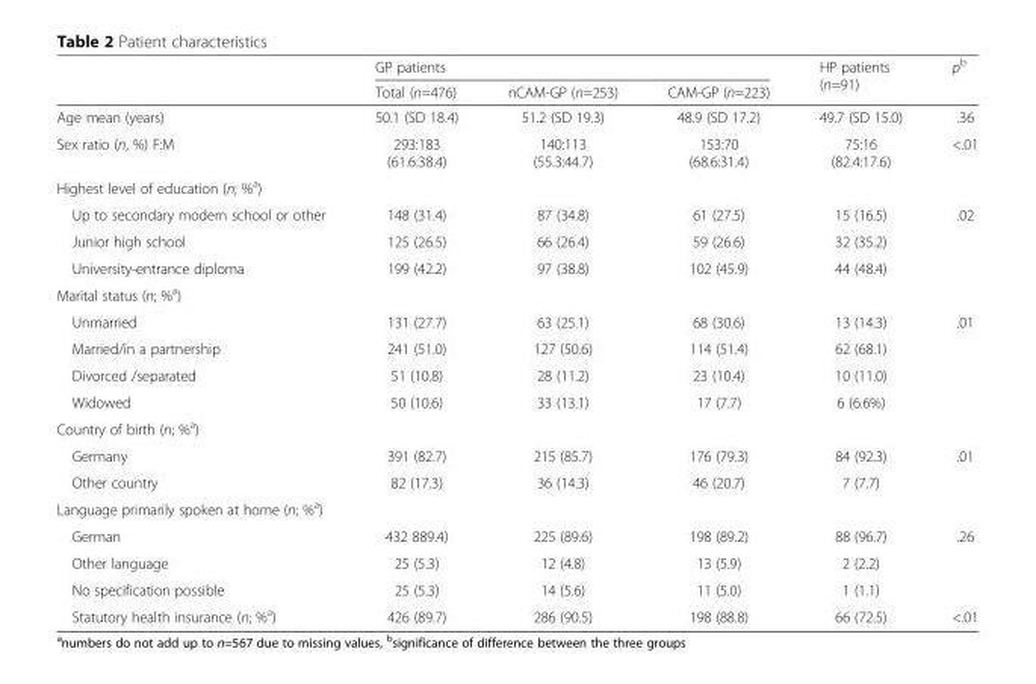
<table><thead><tr><td rowspan="2"></td><td colspan="3">GP patients</td><td rowspan="2">HP patients (n=91)</td><td rowspan="2">p<sup>b</sup></td></tr><tr><td>Total (n=476)</td><td>nCAM-GP (n=253)</td><td>CAM-GP (n=223)</td></tr></thead><tbody><tr><td>Age mean (years)</td><td>50.1 (SD 18.4)</td><td>51.2 (SD 19.3)</td><td>48.9 (SD 17.2)</td><td>49.7 (SD 15.0)</td><td>.36</td></tr><tr><td>Sex ratio (n, %) F:M</td><td>293:183 (61.6:38.4)</td><td>140:113 (55.3:44.7)</td><td>153:70 (68.6:31.4)</td><td>75:16 (82.4:17.6)</td><td>&lt;.01</td></tr><tr><td colspan="6">Highest level of education (n; %<sup>a</sup>)</td></tr><tr><td>Up to secondary modern school or other</td><td>148 (31.4)</td><td>87 (34.8)</td><td>61 (27.5)</td><td>15 (16.5)</td><td rowspan="3">.02</td></tr><tr><td>Junior high school</td><td>125 (26.5)</td><td>66 (26.4)</td><td>59 (26.6)</td><td>32 (35.2)</td></tr><tr><td>University-entrance diploma</td><td>199 (42.2)</td><td>97 (38.8)</td><td>102 (45.9)</td><td>44 (48.4)</td></tr><tr><td colspan="6">Marital status (n; %<sup>a</sup>)</td></tr><tr><td>Unmarried</td><td>131 (27.7)</td><td>63 (25.1)</td><td>68 (30.6)</td><td>13 (14.3)</td><td rowspan="4">.01</td></tr><tr><td>Married/in a partnership</td><td>241 (51.0)</td><td>127 (50.6)</td><td>114 (51.4)</td><td>62 (68.1)</td></tr><tr><td>Divorced /separated</td><td>51 (10.8)</td><td>28 (11.2)</td><td>23 (10.4)</td><td>10 (11.0)</td></tr><tr><td>Widowed</td><td>50 (10.6)</td><td>33 (13.1)</td><td>17 (7.7)</td><td>6 (6.6%)</td></tr><tr><td colspan="6">Country of birth (n; %<sup>a</sup>)</td></tr><tr><td>Germany</td><td>391 (82.7)</td><td>215 (85.7)</td><td>176 (79.3)</td><td>84 (92.3)</td><td rowspan="2">.01</td></tr><tr><td>Other country</td><td>82 (17.3)</td><td>36 (14.3)</td><td>46 (20.7)</td><td>7 (7.7)</td></tr><tr><td colspan="6">Language primarily spoken at home (n; %<sup>a</sup>)</td></tr><tr><td>German</td><td>432 889.4)</td><td>225 (89.6)</td><td>198 (89.2)</td><td>88 (96.7)</td><td rowspan="3">.26</td></tr><tr><td>Other language</td><td>25 (5.3)</td><td>12 (4.8)</td><td>13 (5.9)</td><td>2 (2.2)</td></tr><tr><td>No specification possible</td><td>25 (5.3)</td><td>14 (5.6)</td><td>11 (5.0)</td><td>1 (1.1)</td></tr><tr><td>Statutory health insurance (n; %<sup>a</sup>)</td><td>426 (89.7)</td><td>286 (90.5)</td><td>198 (88.8)</td><td>66 (72.5)</td><td>&lt;.01</td></tr></tbody></table>